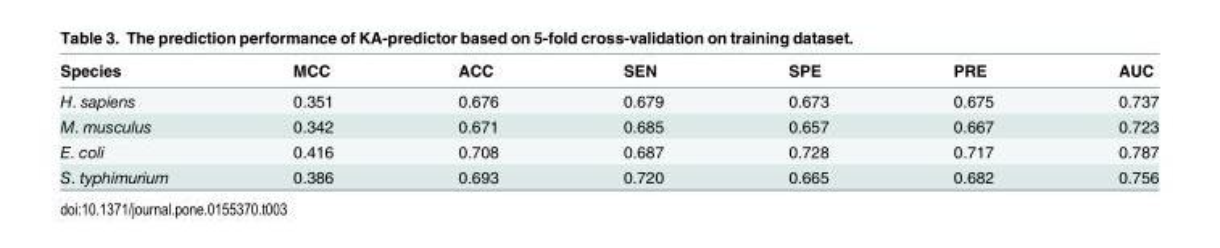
<table><thead><tr><td>Species</td><td>MCC</td><td>ACC</td><td>SEN</td><td>SPE</td><td>PRE</td><td>AUC</td></tr></thead><tbody><tr><td>H. sapiens</td><td>0.351</td><td>0.676</td><td>0.679</td><td>0.673</td><td>0.675</td><td>0.737</td></tr><tr><td>M. musculus</td><td>0.342</td><td>0.671</td><td>0.685</td><td>0.657</td><td>0.667</td><td>0.723</td></tr><tr><td>E. coli</td><td>0.416</td><td>0.708</td><td>0.687</td><td>0.728</td><td>0.717</td><td>0.787</td></tr><tr><td>S. typhimurium</td><td>0.386</td><td>0.693</td><td>0.720</td><td>0.665</td><td>0.682</td><td>0.756</td></tr></tbody></table>